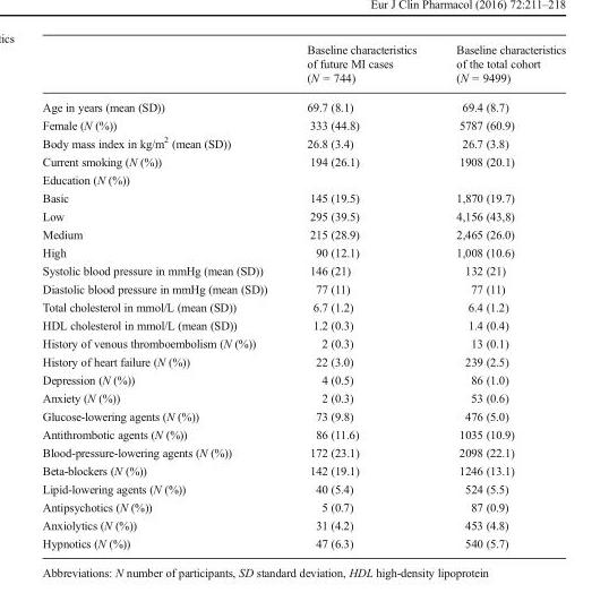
<table><thead><tr><td></td><td>Baseline characteristics of future MI cases (N = 744)</td><td>Baseline characteristics of the total cohort (N = 9499)</td></tr></thead><tbody><tr><td>Age in years (mean (SD))</td><td>69.7 (8.1)</td><td>69.4 (8.7)</td></tr><tr><td>Female (N (%))</td><td>333 (44.8)</td><td>5787 (60.9)</td></tr><tr><td>Body mass index in kg/m<sup>2</sup> (mean (SD))</td><td>26.8 (3.4)</td><td>26.7 (3.8)</td></tr><tr><td>Current smoking (N (%))</td><td>194 (26.1)</td><td>1908 (20.1)</td></tr><tr><td colspan="3">Education (N (%))</td></tr><tr><td>Basic</td><td>145 (19.5)</td><td>1,870 (19.7)</td></tr><tr><td>Low</td><td>295 (39.5)</td><td>4,156 (43,8)</td></tr><tr><td>Medium</td><td>215 (28.9)</td><td>2,465 (26.0)</td></tr><tr><td>High</td><td>90 (12.1)</td><td>1,008 (10.6)</td></tr><tr><td>Systolic blood pressure in mmHg (mean (SD))</td><td>146 (21)</td><td>132 (21)</td></tr><tr><td>Diastolic blood pressure in mmHg (mean (SD))</td><td>77 (11)</td><td>77 (11)</td></tr><tr><td>Total cholesterol in mmol/L (mean (SD))</td><td>6.7 (1.2)</td><td>6.4 (1.2)</td></tr><tr><td>HDL cholesterol in mmol/L (mean (SD))</td><td>1.2 (0.3)</td><td>1.4 (0.4)</td></tr><tr><td>History of venous thromboembolism (N (%))</td><td>2 (0.3)</td><td>13 (0.1)</td></tr><tr><td>History of heart failure (N (%))</td><td>22 (3.0)</td><td>239 (2.5)</td></tr><tr><td>Depression (N (%))</td><td>4 (0.5)</td><td>86 (1.0)</td></tr><tr><td>Anxiety (N (%))</td><td>2 (0.3)</td><td>53 (0.6)</td></tr><tr><td>Glucose-lowering agents (N (%))</td><td>73 (9.8)</td><td>476 (5.0)</td></tr><tr><td>Antithrombotic agents (N (%))</td><td>86 (11.6)</td><td>1035 (10.9)</td></tr><tr><td>Blood-pressure-lowering agents (N (%))</td><td>172 (23.1)</td><td>2098 (22.1)</td></tr><tr><td>Beta-blockers (N (%))</td><td>142 (19.1)</td><td>1246 (13.1)</td></tr><tr><td>Lipid-lowering agents (N (%))</td><td>40 (5.4)</td><td>524 (5.5)</td></tr><tr><td>Antipsychotics (N (%))</td><td>5 (0.7)</td><td>87 (0.9)</td></tr><tr><td>Anxiolytics (N (%))</td><td>31 (4.2)</td><td>453 (4.8)</td></tr><tr><td>Hypnotics (N (%))</td><td>47 (6.3)</td><td>540 (5.7)</td></tr></tbody></table>